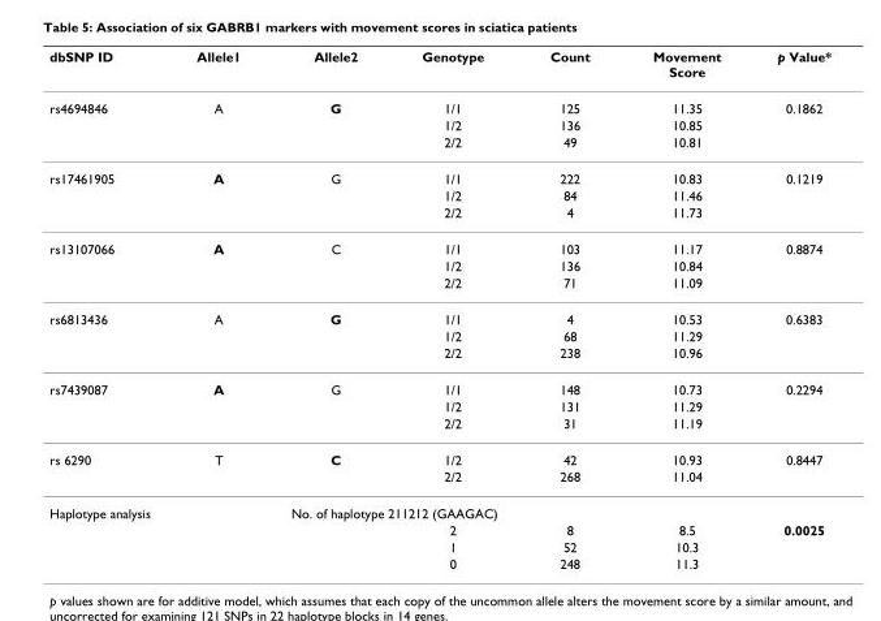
<table><thead><tr><td>dbSNP ID</td><td>Allele1</td><td>Allele2</td><td>Genotype</td><td>Count</td><td>Movement Score</td><td>p Value*</td></tr></thead><tbody><tr><td rowspan="3">rs4694846</td><td>A</td><td>G</td><td>1/1</td><td>125</td><td>11.35</td><td>0.1862</td></tr><tr><td></td><td></td><td>1/2</td><td>136</td><td>10.85</td><td></td></tr><tr><td></td><td></td><td>2/2</td><td>49</td><td>10.81</td><td></td></tr><tr><td rowspan="3">rs17461905</td><td>A</td><td>G</td><td>1/1</td><td>222</td><td>10.83</td><td>0.1219</td></tr><tr><td></td><td></td><td>1/2</td><td>84</td><td>11.46</td><td></td></tr><tr><td></td><td></td><td>2/2</td><td>4</td><td>11.73</td><td></td></tr><tr><td rowspan="3">rs13107066</td><td>A</td><td>C</td><td>1/1</td><td>103</td><td>11.17</td><td>0.8874</td></tr><tr><td></td><td></td><td>1/2</td><td>136</td><td>10.84</td><td></td></tr><tr><td></td><td></td><td>2/2</td><td>71</td><td>11.09</td><td></td></tr><tr><td rowspan="3">rs6813436</td><td>A</td><td>G</td><td>1/1</td><td>4</td><td>10.53</td><td>0.6383</td></tr><tr><td></td><td></td><td>1/2</td><td>68</td><td>11.29</td><td></td></tr><tr><td></td><td></td><td>2/2</td><td>238</td><td>10.96</td><td></td></tr><tr><td rowspan="3">rs7439087</td><td>A</td><td>G</td><td>1/1</td><td>148</td><td>10.73</td><td>0.2294</td></tr><tr><td></td><td></td><td>1/2</td><td>131</td><td>11.29</td><td></td></tr><tr><td></td><td></td><td>2/2</td><td>31</td><td>11.19</td><td></td></tr><tr><td rowspan="2">rs 6290</td><td>T</td><td>C</td><td>1/2</td><td>42</td><td>10.93</td><td>0.8447</td></tr><tr><td></td><td></td><td>2/2</td><td>268</td><td>11.04</td><td></td></tr><tr><td rowspan="4">Haplotype analysis</td><td colspan="4">No. of haplotype 211212 (GAAGAC)</td><td></td><td></td></tr><tr><td></td><td></td><td>2</td><td>8</td><td>8.5</td><td>0.0025</td></tr><tr><td></td><td></td><td>1</td><td>52</td><td>10.3</td><td></td></tr><tr><td></td><td></td><td>0</td><td>248</td><td>11.3</td><td></td></tr></tbody></table>